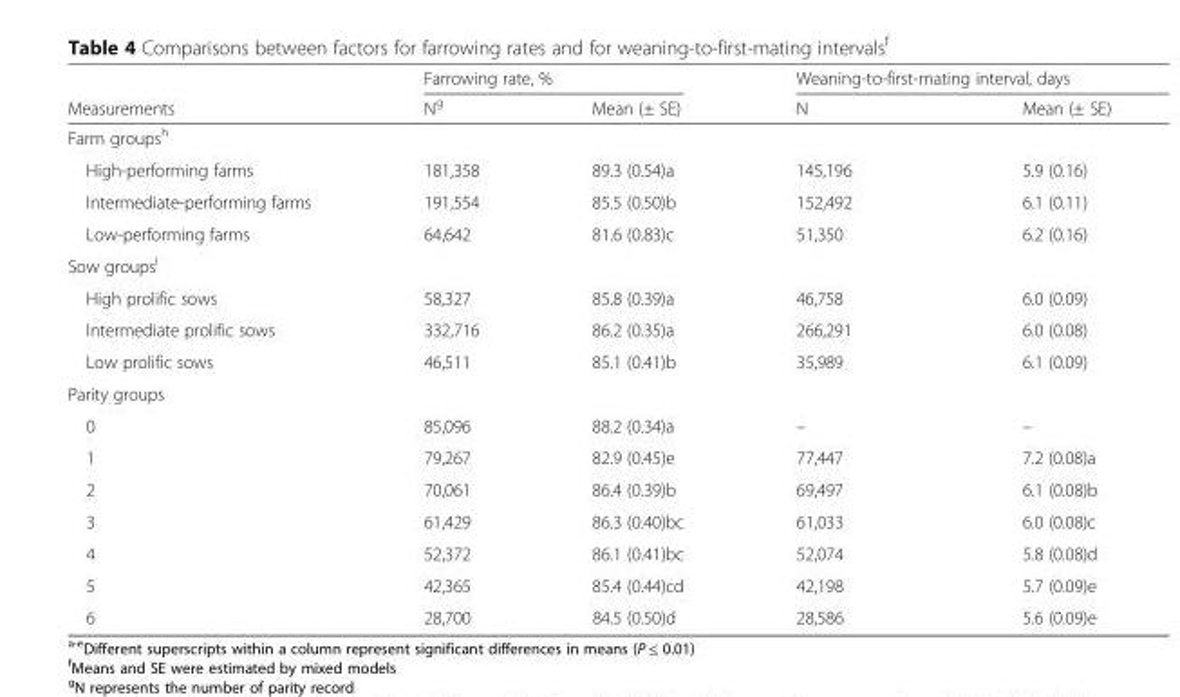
<table><thead><tr><td rowspan="2">Measurements</td><td colspan="2">Farrowing rate, %</td><td colspan="2">Weaning-to-first-mating interval, days</td></tr><tr><td>N<sup>g</sup></td><td>Mean (± SE)</td><td>N</td><td>Mean (± SE)</td></tr></thead><tbody><tr><td colspan="5">Farm groups<sup>h</sup></td></tr><tr><td>High-performing farms</td><td>181,358</td><td>89.3 (0.54)a</td><td>145,196</td><td>5.9 (0.16)</td></tr><tr><td>Intermediate-performing farms</td><td>191,554</td><td>85.5 (0.50)b</td><td>152,492</td><td>6.1 (0.11)</td></tr><tr><td>Low-performing farms</td><td>64,642</td><td>81.6 (0.83)c</td><td>51,350</td><td>6.2 (0.16)</td></tr><tr><td colspan="5">Sow groups<sup>i</sup></td></tr><tr><td>High prolific sows</td><td>58,327</td><td>85.8 (0.39)a</td><td>46,758</td><td>6.0 (0.09)</td></tr><tr><td>Intermediate prolific sows</td><td>332,716</td><td>86.2 (0.35)a</td><td>266,291</td><td>6.0 (0.08)</td></tr><tr><td>Low prolific sows</td><td>46,511</td><td>85.1 (0.41)b</td><td>35,989</td><td>6.1 (0.09)</td></tr><tr><td colspan="5">Parity groups</td></tr><tr><td>0</td><td>85,096</td><td>88.2 (0.34)a</td><td>–</td><td>–</td></tr><tr><td>1</td><td>79,267</td><td>82.9 (0.45)e</td><td>77,447</td><td>7.2 (0.08)a</td></tr><tr><td>2</td><td>70,061</td><td>86.4 (0.39)b</td><td>69,497</td><td>6.1 (0.08)b</td></tr><tr><td>3</td><td>61,429</td><td>86.3 (0.40)bc</td><td>61,033</td><td>6.0 (0.08)c</td></tr><tr><td>4</td><td>52,372</td><td>86.1 (0.41)bc</td><td>52,074</td><td>5.8 (0.08)d</td></tr><tr><td>5</td><td>42,365</td><td>85.4 (0.44)cd</td><td>42,198</td><td>5.7 (0.09)e</td></tr><tr><td>6</td><td>28,700</td><td>84.5 (0.50)d</td><td>28,586</td><td>5.6 (0.09)e</td></tr></tbody></table>